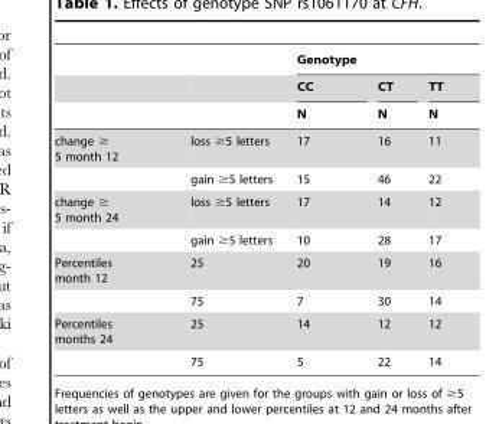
<table><thead><tr><td rowspan="3"></td><td rowspan="3"></td><td colspan="3">Genotype</td></tr><tr><td rowspan="2">CC N</td><td rowspan="2">CT N</td><td rowspan="2">TT N</td></tr><tr></tr></thead><tbody><tr><td rowspan="2">change ≥ 5 month 12</td><td>loss ≥5 letters</td><td>17</td><td>16</td><td>11</td></tr><tr><td>gain ≥5 letters</td><td>15</td><td>46</td><td>22</td></tr><tr><td rowspan="2">change ≥ 5 month 24</td><td>loss ≥5 letters</td><td>17</td><td>14</td><td>12</td></tr><tr><td>gain ≥5 letters</td><td>10</td><td>28</td><td>17</td></tr><tr><td rowspan="2">Percentiles month 12</td><td>25</td><td>20</td><td>19</td><td>16</td></tr><tr><td>75</td><td>7</td><td>30</td><td>14</td></tr><tr><td rowspan="2">Percentiles months 24</td><td>25</td><td>14</td><td>12</td><td>12</td></tr><tr><td>75</td><td>5</td><td>22</td><td>14</td></tr></tbody></table>